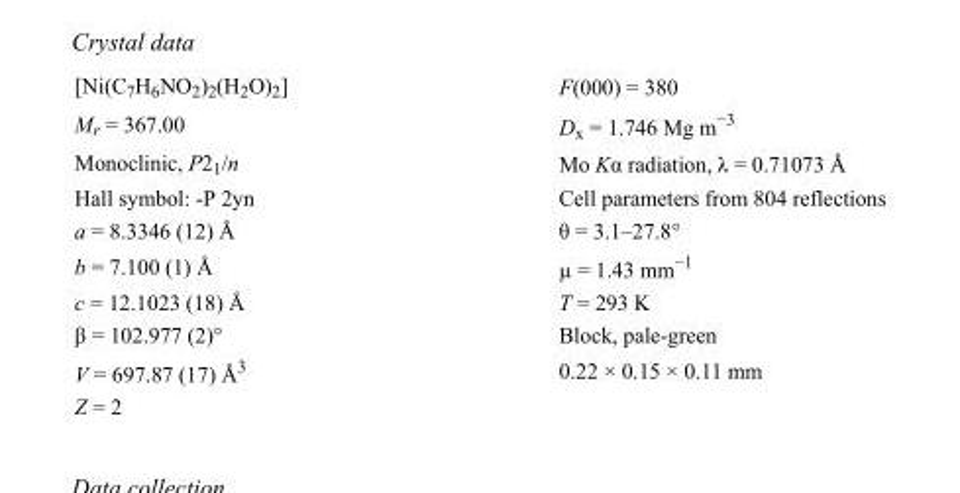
<table><tbody><tr><td>[Ni(C<sub>7</sub>H<sub>6</sub>NO<sub>2</sub>)<sub>2</sub>(H<sub>2</sub>O)<sub>2</sub>]</td><td>F(000) = 380</td></tr><tr><td>M<sub>r</sub> = 367.00</td><td>D<sub>x</sub> = 1.746 Mg m<sup>−3</sup></td></tr><tr><td>Monoclinic, P2<sub>1</sub>/n</td><td>Mo Kα radiation, λ = 0.71073 Å</td></tr><tr><td>Hall symbol: -P 2yn</td><td>Cell parameters from 804 reflections</td></tr><tr><td>a = 8.3346 (12) Å</td><td>θ = 3.1–27.8°</td></tr><tr><td>b = 7.100 (1) Å</td><td>µ = 1.43 mm<sup>−1</sup></td></tr><tr><td>c = 12.1023 (18) Å</td><td>T = 293 K</td></tr><tr><td>β = 102.977 (2)°</td><td>Block, pale-green</td></tr><tr><td>V = 697.87 (17) Å<sup>3</sup></td><td>0.22 × 0.15 × 0.11 mm</td></tr><tr><td>Z = 2</td><td></td></tr></tbody></table>